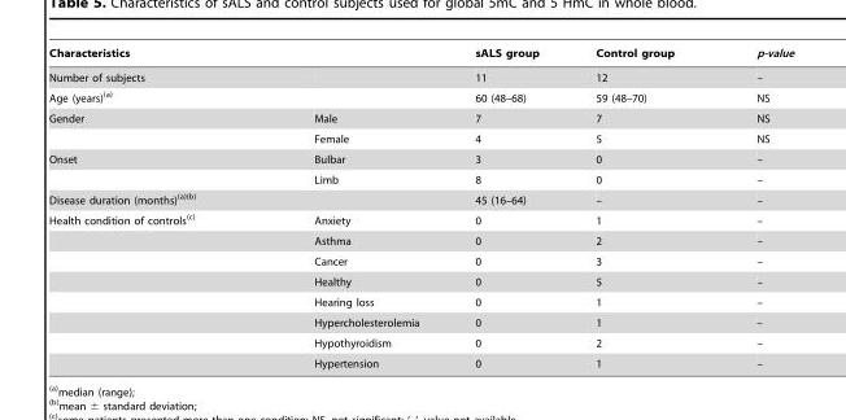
<table><thead><tr><td colspan="2">Characteristics</td><td rowspan="2">sALS group 11</td><td rowspan="2">Control group 12</td><td rowspan="2">p-value –</td></tr><tr><td>Number of subjects</td><td></td></tr></thead><tbody><tr><td colspan="2">Age (years)(a)</td><td>60 (48–68)</td><td>59 (48–70)</td><td>NS</td></tr><tr><td rowspan="2">Gender</td><td>Male</td><td>7</td><td>7</td><td>NS</td></tr><tr><td>Female</td><td>4</td><td>5</td><td>NS</td></tr><tr><td rowspan="2">Onset</td><td>Bulbar</td><td>3</td><td>0</td><td>–</td></tr><tr><td>Limb</td><td>8</td><td>0</td><td>–</td></tr><tr><td colspan="2">Disease duration (months)<sup>(a)(b)</sup></td><td>45 (16–64)</td><td>–</td><td>–</td></tr><tr><td rowspan="8">Health condition of controls(c)</td><td>Anxiety</td><td>0</td><td>1</td><td>–</td></tr><tr><td>Asthma</td><td>0</td><td>2</td><td>–</td></tr><tr><td>Cancer</td><td>0</td><td>3</td><td>–</td></tr><tr><td>Healthy</td><td>0</td><td>5</td><td>–</td></tr><tr><td>Hearing loss</td><td>0</td><td>1</td><td>–</td></tr><tr><td>Hypercholesterolemia</td><td>0</td><td>1</td><td>–</td></tr><tr><td>Hypothyroidism</td><td>0</td><td>2</td><td>–</td></tr><tr><td>Hypertension</td><td>0</td><td>1</td><td>–</td></tr></tbody></table>